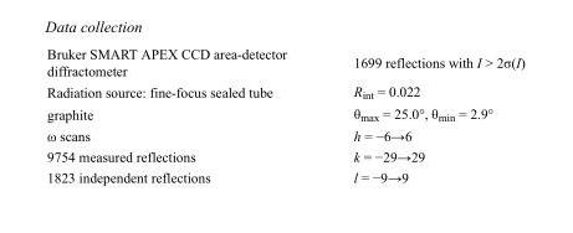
<table><tbody><tr><td>Bruker SMART APEX CCD area-detector diffractometer</td><td>1699 reflections with I &gt; 2σ(I)</td></tr><tr><td>Radiation source: fine-focus sealed tube</td><td>R<sub>int</sub> = 0.022</td></tr><tr><td>graphite</td><td>θ<sub>max</sub> = 25.0°, θ<sub>min</sub> = 2.9°</td></tr><tr><td>ω scans</td><td>h = −6→6</td></tr><tr><td>9754 measured reflections</td><td>k = −29→29</td></tr><tr><td>1823 independent reflections</td><td>l = −9→9</td></tr></tbody></table>